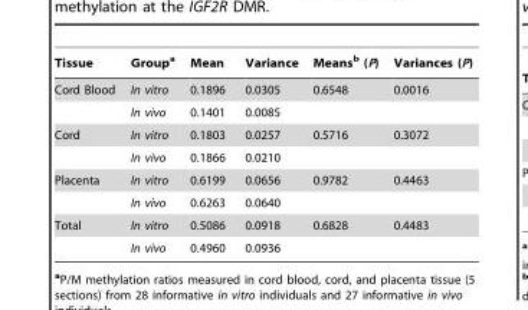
<table><thead><tr><td>Tissue</td><td>Group<sup>a</sup></td><td>Mean</td><td>Variance</td><td>Means<sup>b</sup> (P)</td><td>Variances (P)</td></tr></thead><tbody><tr><td rowspan="2">Cord Blood</td><td>In vitro</td><td>0.1896</td><td>0.0305</td><td>0.6548</td><td>0.0016</td></tr><tr><td>In vivo</td><td>0.1401</td><td>0.0085</td><td></td><td></td></tr><tr><td rowspan="2">Cord</td><td>In vitro</td><td>0.1803</td><td>0.0257</td><td>0.5716</td><td>0.3072</td></tr><tr><td>In vivo</td><td>0.1866</td><td>0.0210</td><td></td><td></td></tr><tr><td rowspan="2">Placenta</td><td>In vitro</td><td>0.6199</td><td>0.0656</td><td>0.9782</td><td>0.4463</td></tr><tr><td>In vivo</td><td>0.6263</td><td>0.0640</td><td></td><td></td></tr><tr><td rowspan="2">Total</td><td>In vitro</td><td>0.5086</td><td>0.0918</td><td>0.6828</td><td>0.4483</td></tr><tr><td>In vivo</td><td>0.4960</td><td>0.0936</td><td></td><td></td></tr></tbody></table>